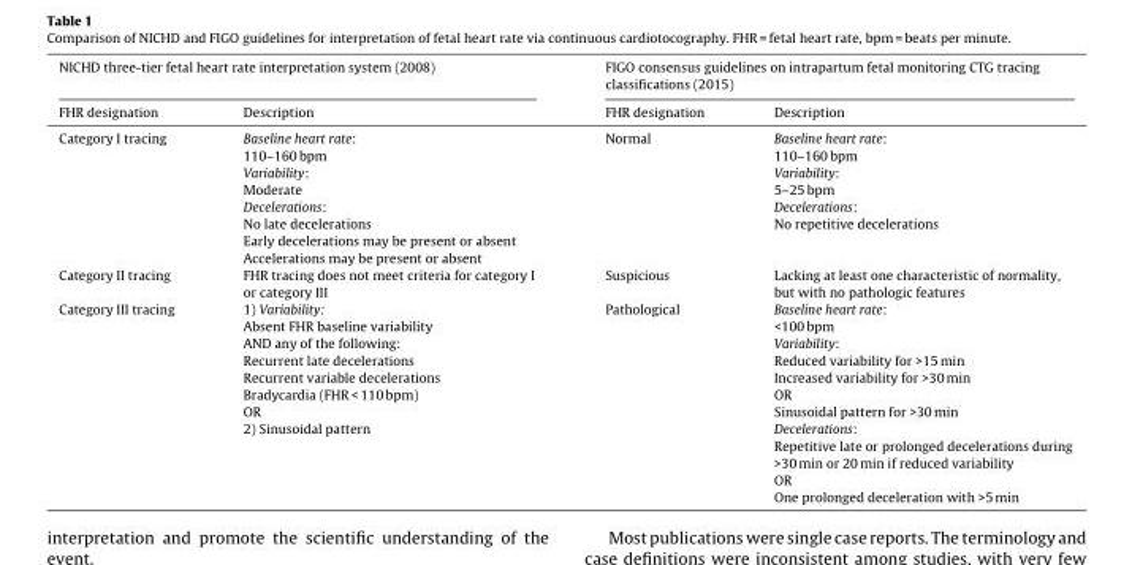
<table><thead><tr><td colspan="2">NICHD three-tier fetal heart rate interpretation system (2008)</td><td colspan="2">FIGO consensus guidelines on intrapartum fetal monitoring CTG tracing classifications (2015)</td></tr><tr><td>FHR designation</td><td>Description</td><td>FHR designation</td><td>Description</td></tr></thead><tbody><tr><td>Category I tracing</td><td>Baseline heart rate: 110–160 bpm Variability: Moderate Decelerations: No late decelerations Early decelerations may be present or absent Accelerations may be present or absent</td><td>Normal</td><td>Baseline heart rate: 110–160 bpm Variability: 5–25 bpm Decelerations: No repetitive decelerations</td></tr><tr><td>Category II tracing</td><td>FHR tracing does not meet criteria for category I or category III</td><td>Suspicious</td><td>Lacking at least one characteristic of normality, but with no pathologic features</td></tr><tr><td>Category III tracing</td><td>1) Variability: Absent FHR baseline variability AND any of the following: Recurrent late decelerations Recurrent variable decelerations Bradycardia (FHR &lt; 110 bpm) OR 2) Sinusoidal pattern</td><td>Pathological</td><td>Baseline heart rate: &lt;100 bpm Variability: Reduced variability for &gt;15 min Increased variability for &gt;30 min OR Sinusoidal pattern for &gt;30 min Decelerations: Repetitive late or prolonged decelerations during &gt;30 min or 20 min if reduced variability OR One prolonged deceleration with &gt;5 min</td></tr></tbody></table>